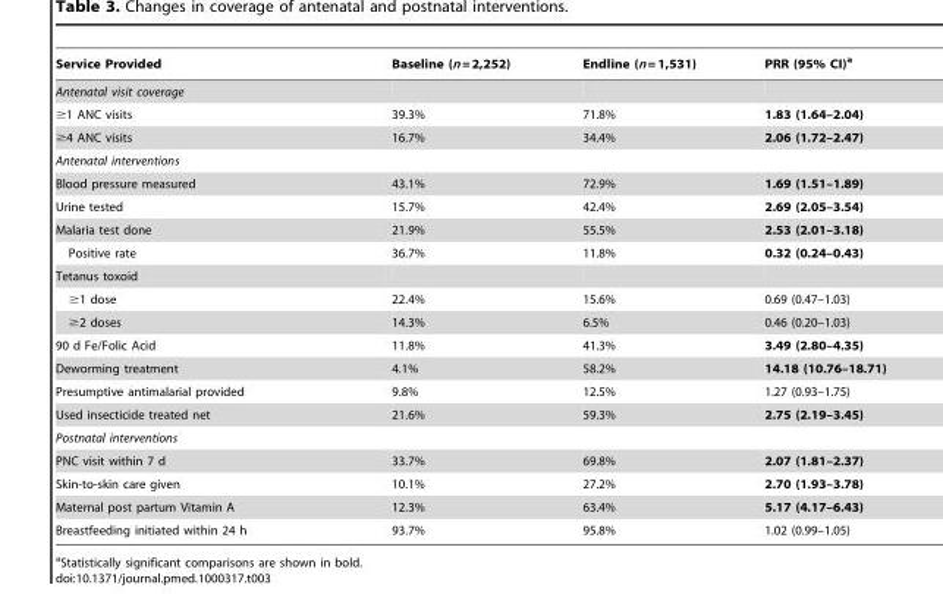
<table><thead><tr><td>Service Provided</td><td>Baseline (n = 2,252)</td><td>Endline (n = 1,531)</td><td>PRR (95% CI)<sup>a</sup></td></tr></thead><tbody><tr><td colspan="4">Antenatal visit coverage</td></tr><tr><td>≥1 ANC visits</td><td>39.3%</td><td>71.8%</td><td>1.83 (1.64–2.04)</td></tr><tr><td>≥4 ANC visits</td><td>16.7%</td><td>34.4%</td><td>2.06 (1.72–2.47)</td></tr><tr><td colspan="4">Antenatal interventions</td></tr><tr><td>Blood pressure measured</td><td>43.1%</td><td>72.9%</td><td>1.69 (1.51–1.89)</td></tr><tr><td>Urine tested</td><td>15.7%</td><td>42.4%</td><td>2.69 (2.05–3.54)</td></tr><tr><td>Malaria test done</td><td>21.9%</td><td>55.5%</td><td>2.53 (2.01–3.18)</td></tr><tr><td>Positive rate</td><td>36.7%</td><td>11.8%</td><td>0.32 (0.24–0.43)</td></tr><tr><td colspan="4">Tetanus toxoid</td></tr><tr><td>≥1 dose</td><td>22.4%</td><td>15.6%</td><td>0.69 (0.47–1.03)</td></tr><tr><td>≥2 doses</td><td>14.3%</td><td>6.5%</td><td>0.46 (0.20–1.03)</td></tr><tr><td>90 d Fe/Folic Acid</td><td>11.8%</td><td>41.3%</td><td>3.49 (2.80–4.35)</td></tr><tr><td>Deworming treatment</td><td>4.1%</td><td>58.2%</td><td>14.18 (10.76–18.71)</td></tr><tr><td>Presumptive antimalarial provided</td><td>9.8%</td><td>12.5%</td><td>1.27 (0.93–1.75)</td></tr><tr><td>Used insecticide treated net</td><td>21.6%</td><td>59.3%</td><td>2.75 (2.19–3.45)</td></tr><tr><td colspan="4">Postnatal interventions</td></tr><tr><td>PNC visit within 7 d</td><td>33.7%</td><td>69.8%</td><td>2.07 (1.81–2.37)</td></tr><tr><td>Skin-to-skin care given</td><td>10.1%</td><td>27.2%</td><td>2.70 (1.93–3.78)</td></tr><tr><td>Maternal post partum Vitamin A</td><td>12.3%</td><td>63.4%</td><td>5.17 (4.17–6.43)</td></tr><tr><td>Breastfeeding initiated within 24 h</td><td>93.7%</td><td>95.8%</td><td>1.02 (0.99–1.05)</td></tr></tbody></table>